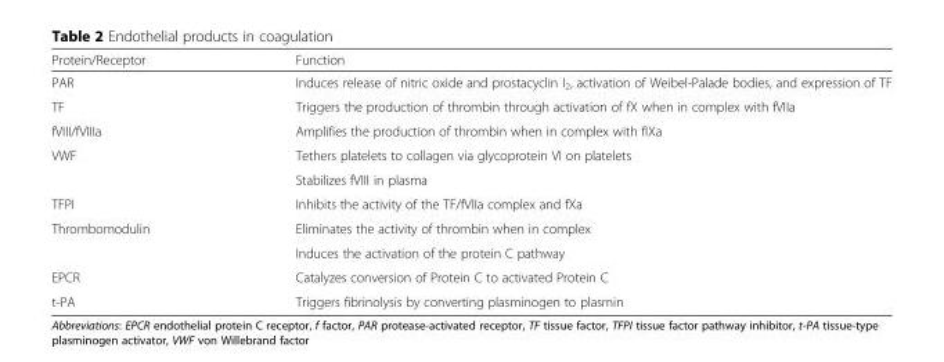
<table><thead><tr><td>Protein/Receptor</td><td>Function</td></tr></thead><tbody><tr><td>PAR</td><td>Induces release of nitric oxide and prostacyclin I<sub>2</sub>, activation of Weibel-Palade bodies, and expression of TF</td></tr><tr><td>TF</td><td>Triggers the production of thrombin through activation of fX when in complex with fVIIa</td></tr><tr><td>fVIII/fVIIIa</td><td>Amplifies the production of thrombin when in complex with fIXa</td></tr><tr><td rowspan="2">VWF</td><td>Tethers platelets to collagen via glycoprotein VI on platelets</td></tr><tr><td>Stabilizes fVIII in plasma</td></tr><tr><td>TFPI</td><td>Inhibits the activity of the TF/fVIIa complex and fXa</td></tr><tr><td rowspan="2">Thrombomodulin</td><td>Eliminates the activity of thrombin when in complex</td></tr><tr><td>Induces the activation of the protein C pathway</td></tr><tr><td>EPCR</td><td>Catalyzes conversion of Protein C to activated Protein C</td></tr><tr><td>t-PA</td><td>Triggers fibrinolysis by converting plasminogen to plasmin</td></tr></tbody></table>